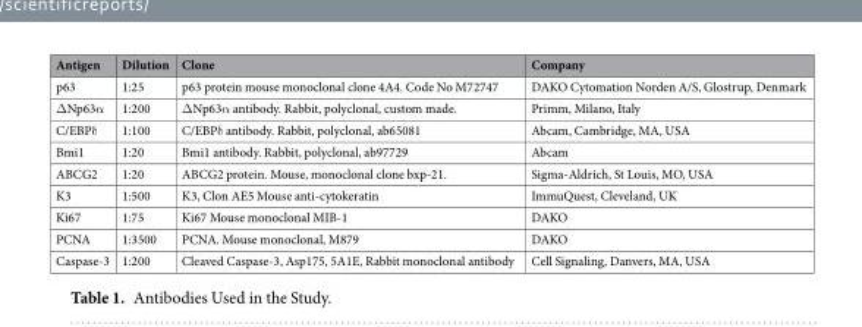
<table><thead><tr><td>Antigen</td><td>Dilution</td><td>Clone</td><td>Company</td></tr></thead><tbody><tr><td>p63</td><td>1:25</td><td>p63 protein mouse monoclonal clone 4A4. Code No M72747</td><td>DAKO Cytomation Norden A/S, Glostrup, Denmark</td></tr><tr><td>ΔNp63α</td><td>1:200</td><td>ΔNp63α antibody. Rabbit, polyclonal, custom made.</td><td>Primm, Milano, Italy</td></tr><tr><td>C/EBPδ</td><td>1:100</td><td>C/EBPδ antibody. Rabbit, polyclonal, ab65081</td><td>Abcam, Cambridge, MA, USA</td></tr><tr><td>Bmi1</td><td>1:20</td><td>Bmi1 antibody. Rabbit, polyclonal, ab97729</td><td>Abcam</td></tr><tr><td>ABCG2</td><td>1:20</td><td>ABCG2 protein. Mouse, monoclonal clone bxp-21.</td><td>Sigma-Aldrich, St Louis, MO, USA</td></tr><tr><td>K3</td><td>1:500</td><td>K3, Clon AE5 Mouse anti-cytokeratin</td><td>ImmuQuest, Cleveland, UK</td></tr><tr><td>Ki67</td><td>1:75</td><td>Ki67 Mouse monoclonal MIB-1</td><td>DAKO</td></tr><tr><td>PCNA</td><td>1:3500</td><td>PCNA. Mouse monoclonal, M879</td><td>DAKO</td></tr><tr><td>Caspase-3</td><td>1:200</td><td>Cleaved Caspase-3, Asp175, 5A1E, Rabbit monoclonal antibody</td><td>Cell Signaling, Danvers, MA, USA</td></tr></tbody></table>